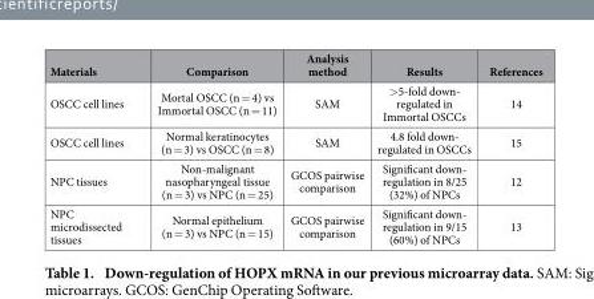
<table><thead><tr><td>Materials</td><td>Comparison</td><td>Analysis method</td><td>Results</td><td>References</td></tr></thead><tbody><tr><td>OSCC cell lines</td><td>Mortal OSCC (n = 4) vs Immortal OSCC (n = 11)</td><td>SAM</td><td>&gt; 5-fold down- regulated in Immortal OSCCs</td><td>14</td></tr><tr><td>OSCC cell lines</td><td>Normal keratinocytes (n = 3) vs OSCC (n = 8)</td><td>SAM</td><td>4.8 fold down- regulated in OSCCs</td><td>15</td></tr><tr><td>NPC tissues</td><td>Non-malignant nasopharyngeal tissue (n = 3) vs NPC (n = 25)</td><td>GCOS pairwise comparison</td><td>Significant down- regulation in 8/25 (32%) of NPCs</td><td>12</td></tr><tr><td>NPC microdissected tissues</td><td>Normal epithelium (n = 3) vs NPC (n = 15)</td><td>GCOS pairwise comparison</td><td>Significant down- regulation in 9/15 (60%) of NPCs</td><td>13</td></tr></tbody></table>